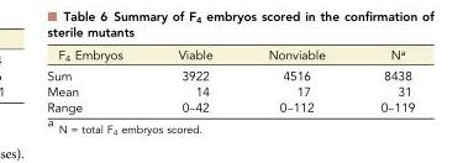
<table><thead><tr><td>F<sub>4</sub> Embryos</td><td>Viable</td><td>Nonviable</td><td>N<sup>a</sup></td></tr></thead><tbody><tr><td>Sum</td><td>3922</td><td>4516</td><td>8438</td></tr><tr><td>Mean</td><td>14</td><td>17</td><td>31</td></tr><tr><td>Range</td><td>0–42</td><td>0–112</td><td>0–119</td></tr></tbody></table>